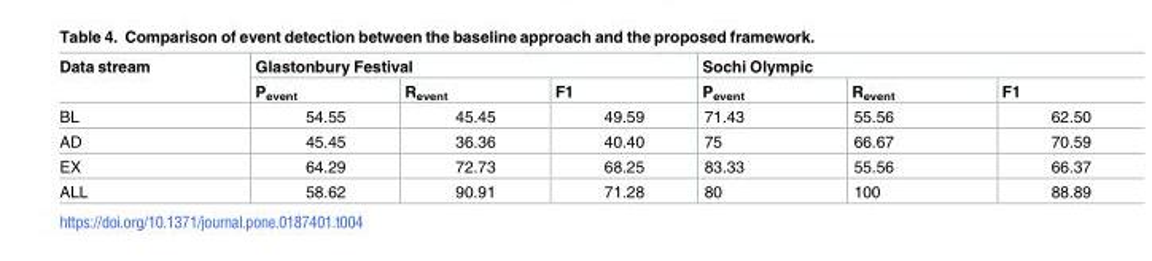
<table><thead><tr><td rowspan="2">Data stream</td><td colspan="3">Glastonbury Festival</td><td colspan="3">Sochi Olympic</td></tr><tr><td>P<sub>event</sub></td><td>R<sub>event</sub></td><td>F1</td><td>P<sub>event</sub></td><td>R<sub>event</sub></td><td>F1</td></tr></thead><tbody><tr><td>BL</td><td>54.55</td><td>45.45</td><td>49.59</td><td>71.43</td><td>55.56</td><td>62.50</td></tr><tr><td>AD</td><td>45.45</td><td>36.36</td><td>40.40</td><td>75</td><td>66.67</td><td>70.59</td></tr><tr><td>EX</td><td>64.29</td><td>72.73</td><td>68.25</td><td>83.33</td><td>55.56</td><td>66.37</td></tr><tr><td>ALL</td><td>58.62</td><td>90.91</td><td>71.28</td><td>80</td><td>100</td><td>88.89</td></tr></tbody></table>